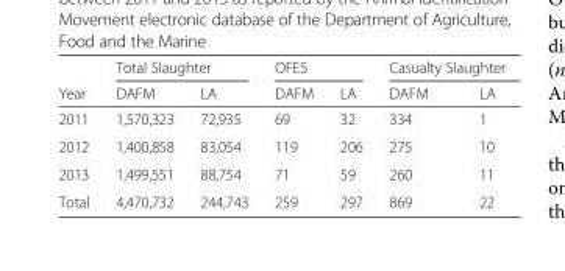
<table><thead><tr><td rowspan="2">Year</td><td colspan="2">Total Slaughter</td><td colspan="2">OFES</td><td colspan="2">Casualty Slaughter</td></tr><tr><td>DAFM</td><td>LA</td><td>DAFM</td><td>LA</td><td>DAFM</td><td>LA</td></tr></thead><tbody><tr><td>2011</td><td>1,570,323</td><td>72,935</td><td>69</td><td>32</td><td>334</td><td>1</td></tr><tr><td>2012</td><td>1,400,858</td><td>83,054</td><td>119</td><td>206</td><td>275</td><td>10</td></tr><tr><td>2013</td><td>1,499,551</td><td>88,754</td><td>71</td><td>59</td><td>260</td><td>11</td></tr><tr><td>Total</td><td>4,470,732</td><td>244,743</td><td>259</td><td>297</td><td>869</td><td>22</td></tr></tbody></table>